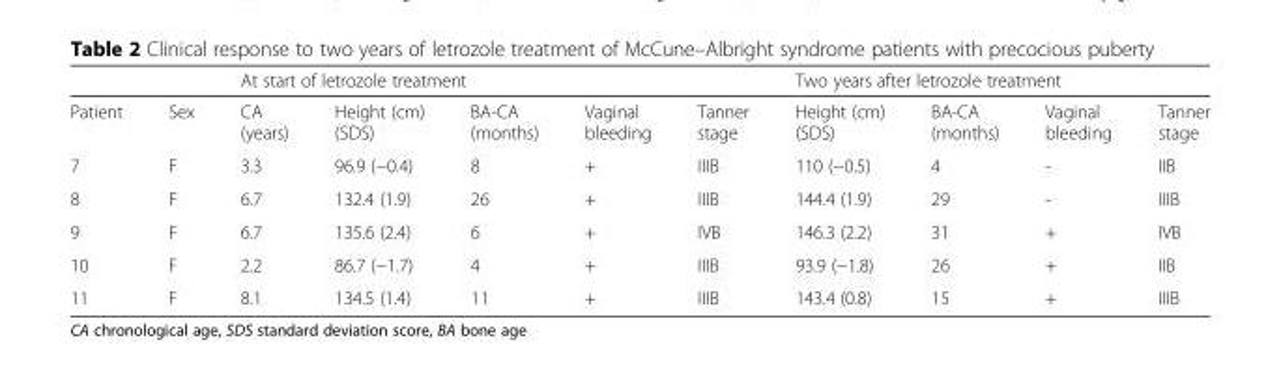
<table><thead><tr><td rowspan="2">Patient</td><td rowspan="2">Sex</td><td colspan="5">At start of letrozole treatment</td><td colspan="4">Two years after letrozole treatment</td></tr><tr><td>CA (years)</td><td>Height (cm) (SDS)</td><td>BA-CA (months)</td><td>Vaginal bleeding</td><td>Tanner stage</td><td>Height (cm) (SDS)</td><td>BA-CA (months)</td><td>Vaginal bleeding</td><td>Tanner stage</td></tr></thead><tbody><tr><td>7</td><td>F</td><td>3.3</td><td>96.9 (−0.4)</td><td>8</td><td>+</td><td>IIIB</td><td>110 (−0.5)</td><td>4</td><td>-</td><td>IIB</td></tr><tr><td>8</td><td>F</td><td>6.7</td><td>132.4 (1.9)</td><td>26</td><td>+</td><td>IIIB</td><td>144.4 (1.9)</td><td>29</td><td>-</td><td>IIIB</td></tr><tr><td>9</td><td>F</td><td>6.7</td><td>135.6 (2.4)</td><td>6</td><td>+</td><td>IVB</td><td>146.3 (2.2)</td><td>31</td><td>+</td><td>IVB</td></tr><tr><td>10</td><td>F</td><td>2.2</td><td>86.7 (−1.7)</td><td>4</td><td>+</td><td>IIIB</td><td>93.9 (−1.8)</td><td>26</td><td>+</td><td>IIB</td></tr><tr><td>11</td><td>F</td><td>8.1</td><td>134.5 (1.4)</td><td>11</td><td>+</td><td>IIIB</td><td>143.4 (0.8)</td><td>15</td><td>+</td><td>IIIB</td></tr></tbody></table>